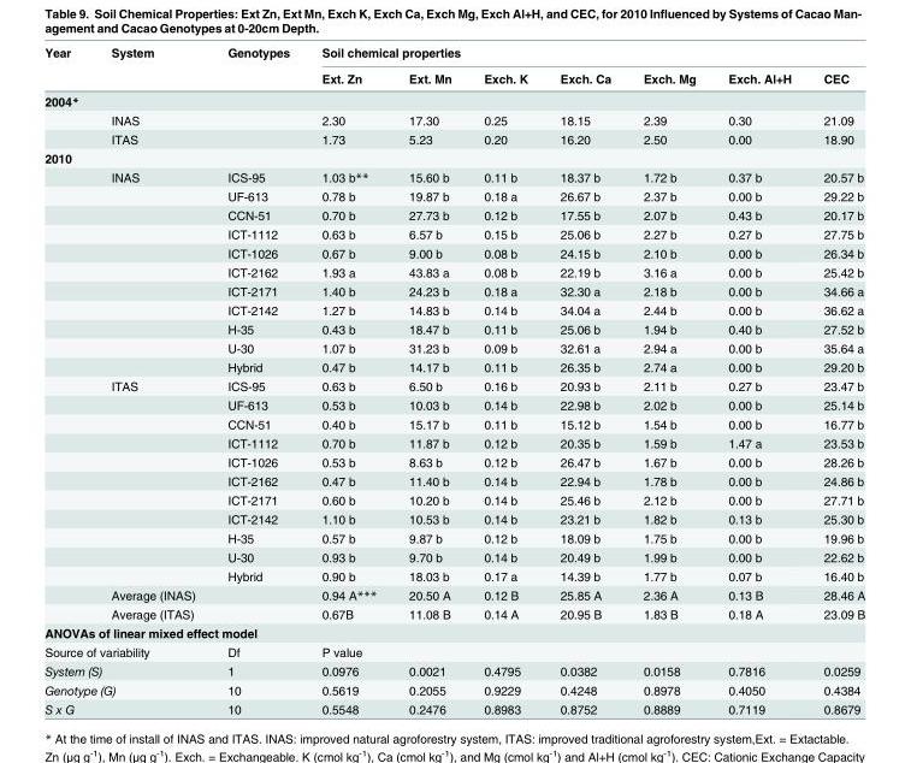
<table><thead><tr><td rowspan="2">Year</td><td rowspan="2">System</td><td rowspan="2">Genotypes</td><td colspan="7">Soil chemical properties</td></tr><tr><td>Ext. Zn</td><td>Ext. Mn</td><td>Exch. K</td><td>Exch. Ca</td><td>Exch. Mg</td><td>Exch. Al+H</td><td>CEC</td></tr></thead><tbody><tr><td colspan="10">2004*</td></tr><tr><td></td><td>INAS</td><td></td><td>2.30</td><td>17.30</td><td>0.25</td><td>18.15</td><td>2.39</td><td>0.30</td><td>21.09</td></tr><tr><td></td><td>ITAS</td><td></td><td>1.73</td><td>5.23</td><td>0.20</td><td>16.20</td><td>2.50</td><td>0.00</td><td>18.90</td></tr><tr><td colspan="10">2010</td></tr><tr><td></td><td>INAS</td><td>ICS-95</td><td>1.03 b**</td><td>15.60 b</td><td>0.11 b</td><td>18.37 b</td><td>1.72 b</td><td>0.37 b</td><td>20.57 b</td></tr><tr><td></td><td></td><td>UF-613</td><td>0.78 b</td><td>19.87 b</td><td>0.18 a</td><td>26.67 b</td><td>2.37 b</td><td>0.00 b</td><td>29.22 b</td></tr><tr><td></td><td></td><td>CCN-51</td><td>0.70 b</td><td>27.73 b</td><td>0.12 b</td><td>17.55 b</td><td>2.07 b</td><td>0.43 b</td><td>20.17 b</td></tr><tr><td></td><td></td><td>ICT-1112</td><td>0.63 b</td><td>6.57 b</td><td>0.15 b</td><td>25.06 b</td><td>2.27 b</td><td>0.27 b</td><td>27.75 b</td></tr><tr><td></td><td></td><td>ICT-1026</td><td>0.67 b</td><td>9.00 b</td><td>0.08 b</td><td>24.15 b</td><td>2.10 b</td><td>0.00 b</td><td>26.34 b</td></tr><tr><td></td><td></td><td>ICT-2162</td><td>1.93 a</td><td>43.83 a</td><td>0.08 b</td><td>22.19 b</td><td>3.16 a</td><td>0.00 b</td><td>25.42 b</td></tr><tr><td></td><td></td><td>ICT-2171</td><td>1.40 b</td><td>24.23 b</td><td>0.18 a</td><td>32.30 a</td><td>2.18 b</td><td>0.00 b</td><td>34.66 a</td></tr><tr><td></td><td></td><td>ICT-2142</td><td>1.27 b</td><td>14.83 b</td><td>0.14 b</td><td>34.04 a</td><td>2.44 b</td><td>0.00 b</td><td>36.62 a</td></tr><tr><td></td><td></td><td>H-35</td><td>0.43 b</td><td>18.47 b</td><td>0.11 b</td><td>25.06 b</td><td>1.94 b</td><td>0.40 b</td><td>27.52 b</td></tr><tr><td></td><td></td><td>U-30</td><td>1.07 b</td><td>31.23 b</td><td>0.09 b</td><td>32.61 a</td><td>2.94 a</td><td>0.00 b</td><td>35.64 a</td></tr><tr><td></td><td></td><td>Hybrid</td><td>0.47 b</td><td>14.17 b</td><td>0.11 b</td><td>26.35 b</td><td>2.74 a</td><td>0.00 b</td><td>29.20 b</td></tr><tr><td></td><td>ITAS</td><td>ICS-95</td><td>0.63 b</td><td>6.50 b</td><td>0.16 b</td><td>20.93 b</td><td>2.11 b</td><td>0.27 b</td><td>23.47 b</td></tr><tr><td></td><td></td><td>UF-613</td><td>0.53 b</td><td>10.03 b</td><td>0.14 b</td><td>22.98 b</td><td>2.02 b</td><td>0.00 b</td><td>25.14 b</td></tr><tr><td></td><td></td><td>CCN-51</td><td>0.40 b</td><td>15.17 b</td><td>0.11 b</td><td>15.12 b</td><td>1.54 b</td><td>0.00 b</td><td>16.77 b</td></tr><tr><td></td><td></td><td>ICT-1112</td><td>0.70 b</td><td>11.87 b</td><td>0.12 b</td><td>20.35 b</td><td>1.59 b</td><td>1.47 a</td><td>23.53 b</td></tr><tr><td></td><td></td><td>ICT-1026</td><td>0.53 b</td><td>8.63 b</td><td>0.12 b</td><td>26.47 b</td><td>1.67 b</td><td>0.00 b</td><td>28.26 b</td></tr><tr><td></td><td></td><td>ICT-2162</td><td>0.47 b</td><td>11.40 b</td><td>0.14 b</td><td>22.94 b</td><td>1.78 b</td><td>0.00 b</td><td>24.86 b</td></tr><tr><td></td><td></td><td>ICT-2171</td><td>0.60 b</td><td>10.20 b</td><td>0.14 b</td><td>25.46 b</td><td>2.12 b</td><td>0.00 b</td><td>27.71 b</td></tr><tr><td></td><td></td><td>ICT-2142</td><td>1.10 b</td><td>10.53 b</td><td>0.14 b</td><td>23.21 b</td><td>1.82 b</td><td>0.13 b</td><td>25.30 b</td></tr><tr><td></td><td></td><td>H-35</td><td>0.57 b</td><td>9.87 b</td><td>0.12 b</td><td>18.09 b</td><td>1.75 b</td><td>0.00 b</td><td>19.96 b</td></tr><tr><td></td><td></td><td>U-30</td><td>0.93 b</td><td>9.70 b</td><td>0.14 b</td><td>20.49 b</td><td>1.99 b</td><td>0.00 b</td><td>22.62 b</td></tr><tr><td></td><td></td><td>Hybrid</td><td>0.90 b</td><td>18.03 b</td><td>0.17 a</td><td>14.39 b</td><td>1.77 b</td><td>0.07 b</td><td>16.40 b</td></tr><tr><td></td><td>Average (INAS)</td><td></td><td>0.94 A***</td><td>20.50 A</td><td>0.12 B</td><td>25.85 A</td><td>2.36 A</td><td>0.13 B</td><td>28.46 A</td></tr><tr><td></td><td>Average (ITAS)</td><td></td><td>0.67B</td><td>11.08 B</td><td>0.14 A</td><td>20.95 B</td><td>1.83 B</td><td>0.18 A</td><td>23.09 B</td></tr><tr><td colspan="10">ANOVAs of linear mixed effect model</td></tr><tr><td colspan="2">Source of variability</td><td>Df</td><td colspan="7">P value</td></tr><tr><td colspan="2">System (S)</td><td>1</td><td>0.0976</td><td>0.0021</td><td>0.4795</td><td>0.0382</td><td>0.0158</td><td>0.7816</td><td>0.0259</td></tr><tr><td colspan="2">Genotype (G)</td><td>10</td><td>0.5619</td><td>0.2055</td><td>0.9229</td><td>0.4248</td><td>0.8978</td><td>0.4050</td><td>0.4384</td></tr><tr><td colspan="2">S x G</td><td>10</td><td>0.5548</td><td>0.2476</td><td>0.8983</td><td>0.8752</td><td>0.8889</td><td>0.7119</td><td>0.8679</td></tr></tbody></table>